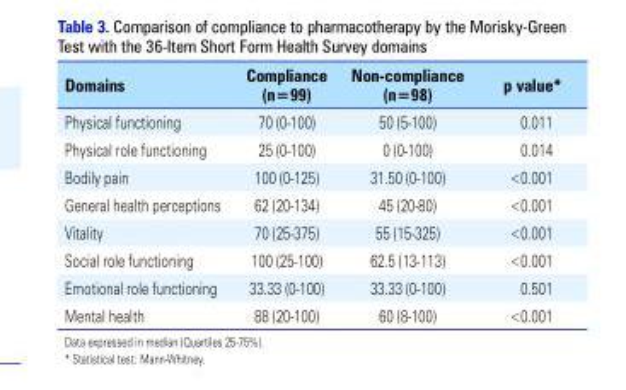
<table><thead><tr><td>Domains</td><td>Compliance (n=99)</td><td>Non-compliance (n=98)</td><td>p value*</td></tr></thead><tbody><tr><td>Physical functioning</td><td>70 (0-100)</td><td>50 (5-100)</td><td>0.011</td></tr><tr><td>Physical role functioning</td><td>25 (0-100)</td><td>0 (0-100)</td><td>0.014</td></tr><tr><td>Bodily pain</td><td>100 (0-125)</td><td>31.50 (0-100)</td><td>&lt;0.001</td></tr><tr><td>General health perceptions</td><td>62 (20-134)</td><td>45 (20-80)</td><td>&lt;0.001</td></tr><tr><td>Vitality</td><td>70 (25-375)</td><td>55 (15-325)</td><td>&lt;0.001</td></tr><tr><td>Social role functioning</td><td>100 (25-100)</td><td>62.5 (13-113)</td><td>&lt;0.001</td></tr><tr><td>Emotional role functioning</td><td>33.33 (0-100)</td><td>33.33 (0-100)</td><td>0.501</td></tr><tr><td>Mental health</td><td>88 (20-100)</td><td>60 (8-100)</td><td>&lt;0.001</td></tr></tbody></table>